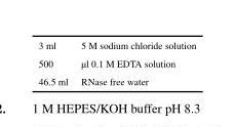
<table><tbody><tr><td>3 ml</td><td>5 M sodium chloride solution</td></tr><tr><td>500</td><td>μl 0.1 M EDTA solution</td></tr><tr><td>46.5 ml</td><td>RNase free water</td></tr></tbody></table>